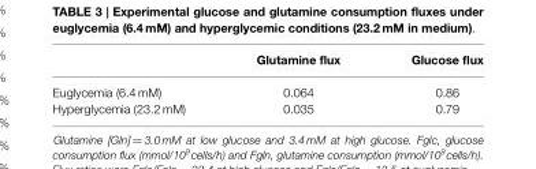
<table><thead><tr><td></td><td>Glutamine flux</td><td>Glucose flux</td></tr></thead><tbody><tr><td>Euglycemia (6.4 mM)</td><td>0.064</td><td>0.86</td></tr><tr><td>Hyperglycemia (23.2 mM)</td><td>0.035</td><td>0.79</td></tr></tbody></table>